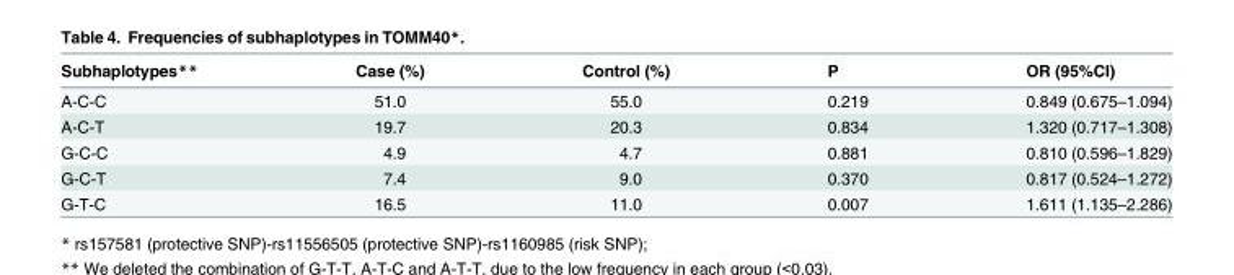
<table><thead><tr><td>Subhaplotypes**</td><td>Case (%)</td><td>Control (%)</td><td>P</td><td>OR (95%CI)</td></tr></thead><tbody><tr><td>A-C-C</td><td>51.0</td><td>55.0</td><td>0.219</td><td>0.849 (0.675–1.094)</td></tr><tr><td>A-C-T</td><td>19.7</td><td>20.3</td><td>0.834</td><td>1.320 (0.717–1.308)</td></tr><tr><td>G-C-C</td><td>4.9</td><td>4.7</td><td>0.881</td><td>0.810 (0.596–1.829)</td></tr><tr><td>G-C-T</td><td>7.4</td><td>9.0</td><td>0.370</td><td>0.817 (0.524–1.272)</td></tr><tr><td>G-T-C</td><td>16.5</td><td>11.0</td><td>0.007</td><td>1.611 (1.135–2.286)</td></tr></tbody></table>